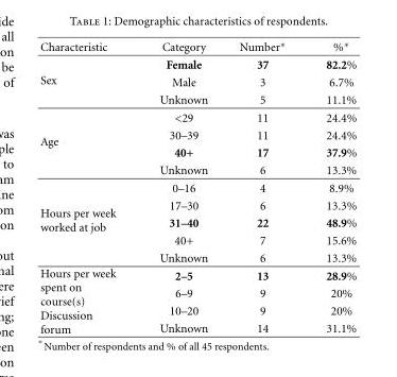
<table><thead><tr><td>Characteristic</td><td>Category</td><td>Number∗</td><td>%∗</td></tr></thead><tbody><tr><td rowspan="3">Sex</td><td>Female</td><td>37</td><td>82.2%</td></tr><tr><td>Male</td><td>3</td><td>6.7%</td></tr><tr><td>Unknown</td><td>5</td><td>11.1%</td></tr><tr><td rowspan="4">Age</td><td>&lt;29</td><td>11</td><td>24.4%</td></tr><tr><td>30–39</td><td>11</td><td>24.4%</td></tr><tr><td>40+</td><td>17</td><td>37.9%</td></tr><tr><td>Unknown</td><td>6</td><td>13.3%</td></tr><tr><td rowspan="5">Hours per week worked at job</td><td>0–16</td><td>4</td><td>8.9%</td></tr><tr><td>17–30</td><td>6</td><td>13.3%</td></tr><tr><td>31–40</td><td>22</td><td>48.9%</td></tr><tr><td>40+</td><td>7</td><td>15.6%</td></tr><tr><td>Unknown</td><td>6</td><td>13.3%</td></tr><tr><td rowspan="4">Hours per week spent on course(s) Discussion forum</td><td>2–5</td><td>13</td><td>28.9%</td></tr><tr><td>6–9</td><td>9</td><td>20%</td></tr><tr><td>10–20</td><td>9</td><td>20%</td></tr><tr><td>Unknown</td><td>14</td><td>31.1%</td></tr></tbody></table>